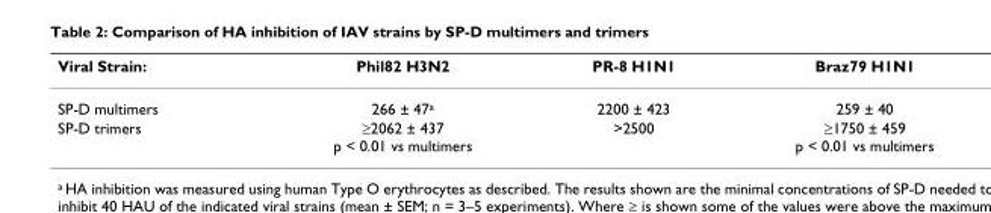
<table><thead><tr><td>Viral Strain:</td><td>Phil82 H3N2</td><td>PR-8 H1N1</td><td>Braz79 H1N1</td></tr></thead><tbody><tr><td>SP-D multimers</td><td>266 ± 47<sup>a</sup></td><td>2200 ± 423</td><td>259 ± 40</td></tr><tr><td>SP-D trimers</td><td>≥2062 ± 437 p &lt; 0.01 vs multimers</td><td>&gt;2500</td><td>≥1750 ± 459 p &lt; 0.01 vs multimers</td></tr></tbody></table>